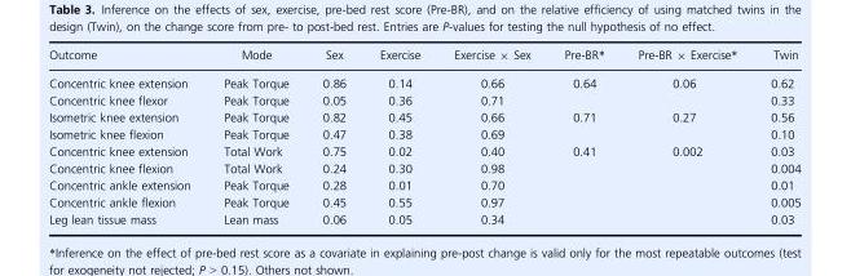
<table><thead><tr><td>Outcome</td><td>Mode</td><td>Sex</td><td>Exercise</td><td>Exercise × Sex</td><td>Pre-BR*</td><td>Pre-BR 9 Exercise*</td><td>Twin</td></tr></thead><tbody><tr><td>Concentric knee extension</td><td>Peak Torque</td><td>0.86</td><td>0.14</td><td>0.66</td><td>0.64</td><td>0.06</td><td>0.62</td></tr><tr><td>Concentric knee flexor</td><td>Peak Torque</td><td>0.05</td><td>0.36</td><td>0.71</td><td></td><td></td><td>0.33</td></tr><tr><td>Isometric knee extension</td><td>Peak Torque</td><td>0.82</td><td>0.45</td><td>0.66</td><td>0.71</td><td>0.27</td><td>0.56</td></tr><tr><td>Isometric knee flexion</td><td>Peak Torque</td><td>0.47</td><td>0.38</td><td>0.69</td><td></td><td></td><td>0.10</td></tr><tr><td>Concentric knee extension</td><td>Total Work</td><td>0.75</td><td>0.02</td><td>0.40</td><td>0.41</td><td>0.002</td><td>0.03</td></tr><tr><td>Concentric knee flexion</td><td>Total Work</td><td>0.24</td><td>0.30</td><td>0.98</td><td></td><td></td><td>0.004</td></tr><tr><td>Concentric ankle extension</td><td>Peak Torque</td><td>0.28</td><td>0.01</td><td>0.70</td><td></td><td></td><td>0.01</td></tr><tr><td>Concentric ankle flexion</td><td>Peak Torque</td><td>0.45</td><td>0.55</td><td>0.97</td><td></td><td></td><td>0.005</td></tr><tr><td>Leg lean tissue mass</td><td>Lean mass</td><td>0.06</td><td>0.05</td><td>0.34</td><td></td><td></td><td>0.03</td></tr></tbody></table>